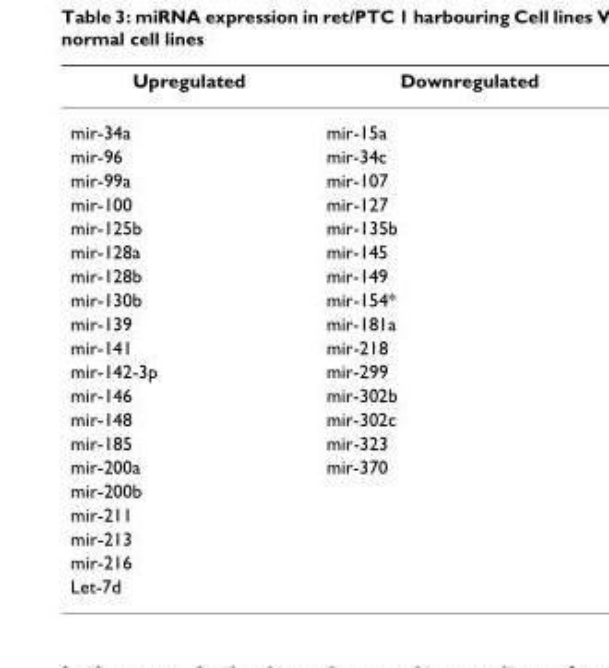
<table><thead><tr><td>Upregulated</td><td>Downregulated</td></tr></thead><tbody><tr><td>mir-34a</td><td>mir-15a</td></tr><tr><td>mir-96</td><td>mir-34c</td></tr><tr><td>mir-99a</td><td>mir-107</td></tr><tr><td>mir-100</td><td>mir-127</td></tr><tr><td>mir-125b</td><td>mir-135b</td></tr><tr><td>mir-128a</td><td>mir-145</td></tr><tr><td>mir-128b</td><td>mir-149</td></tr><tr><td>mir-130b</td><td>mir-154*</td></tr><tr><td>mir-139</td><td>mir-181a</td></tr><tr><td>mir-141</td><td>mir-218</td></tr><tr><td>mir-142-3p</td><td>mir-299</td></tr><tr><td>mir-146</td><td>mir-302b</td></tr><tr><td>mir-148</td><td>mir-302c</td></tr><tr><td>mir-185</td><td>mir-323</td></tr><tr><td>mir-200a</td><td>mir-370</td></tr><tr><td colspan="2">mir-200b</td></tr><tr><td colspan="2">mir-211</td></tr><tr><td colspan="2">mir-213</td></tr><tr><td colspan="2">mir-216</td></tr><tr><td>Let-7d</td><td></td></tr></tbody></table>